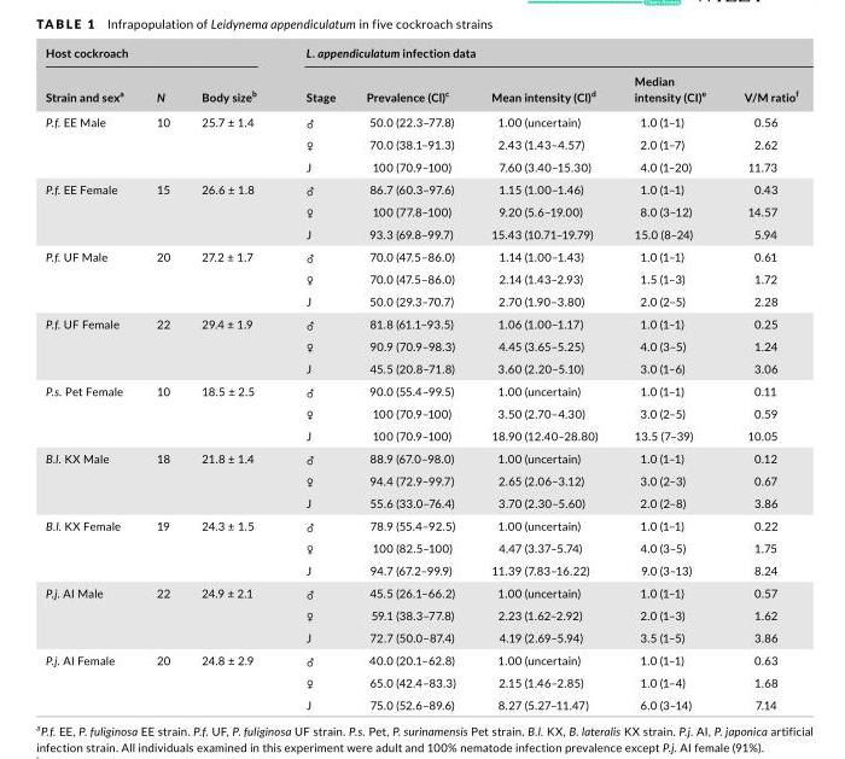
<table><thead><tr><td colspan="3">Host cockroach</td><td colspan="5">L. appendiculatum infection data</td></tr><tr><td>Strain and sex<sup>a</sup></td><td>N</td><td>Body size<sup>b</sup></td><td>Stage</td><td>Prevalence (Cl)<sup>c</sup></td><td>Mean intensity (Cl)<sup>d</sup></td><td>Median intensity (CI)<sup>e</sup></td><td>V/M ratio<sup>f</sup></td></tr></thead><tbody><tr><td rowspan="3">P.f. EE Male</td><td rowspan="3">10</td><td rowspan="3">25.7 ± 1.4</td><td>♂</td><td>50.0 (22.3–77.8)</td><td>1.00 (uncertain)</td><td>1.0 (1–1)</td><td>0.56</td></tr><tr><td>♀</td><td>70.0 (38.1–91.3)</td><td>2.43 (1.43–4.57)</td><td>2.0 (1–7)</td><td>2.62</td></tr><tr><td>J</td><td>100 (70.9–100)</td><td>7.60 (3.40–15.30)</td><td>4.0 (1–20)</td><td>11.73</td></tr><tr><td rowspan="3">P.f. EE Female</td><td rowspan="3">15</td><td rowspan="3">26.6 ± 1.8</td><td>♂</td><td>86.7 (60.3–97.6)</td><td>1.15 (1.00–1.46)</td><td>1.0 (1–1)</td><td>0.43</td></tr><tr><td>♀</td><td>100 (77.8–100)</td><td>9.20 (5.6–19.00)</td><td>8.0 (3–12)</td><td>14.57</td></tr><tr><td>J</td><td>93.3 (69.8–99.7)</td><td>15.43 (10.71–19.79)</td><td>15.0 (8–24)</td><td>5.94</td></tr><tr><td rowspan="3">P.f. UF Male</td><td rowspan="3">20</td><td rowspan="3">27.2 ± 1.7</td><td>♂</td><td>70.0 (47.5–86.0)</td><td>1.14 (1.00–1.43)</td><td>1.0 (1–1)</td><td>0.61</td></tr><tr><td>♀</td><td>70.0 (47.5–86.0)</td><td>2.14 (1.43–2.93)</td><td>1.5 (1–3)</td><td>1.72</td></tr><tr><td>J</td><td>50.0 (29.3–70.7)</td><td>2.70 (1.90–3.80)</td><td>2.0 (2–5)</td><td>2.28</td></tr><tr><td rowspan="3">P.f. UF Female</td><td rowspan="3">22</td><td rowspan="3">29.4 ± 1.9</td><td>♂</td><td>81.8 (61.1–93.5)</td><td>1.06 (1.00–1.17)</td><td>1.0 (1–1)</td><td>0.25</td></tr><tr><td>♀</td><td>90.9 (70.9–98.3)</td><td>4.45 (3.65–5.25)</td><td>4.0 (3–5)</td><td>1.24</td></tr><tr><td>J</td><td>45.5 (20.8–71.8)</td><td>3.60 (2.20–5.10)</td><td>3.0 (1–6)</td><td>3.06</td></tr><tr><td rowspan="3">P.s. Pet Female</td><td rowspan="3">10</td><td rowspan="3">18.5 ± 2.5</td><td>♂</td><td>90.0 (55.4–99.5)</td><td>1.00 (uncertain)</td><td>1.0 (1–1)</td><td>0.11</td></tr><tr><td>♀</td><td>100 (70.9–100)</td><td>3.50 (2.70–4.30)</td><td>3.0 (2–5)</td><td>0.59</td></tr><tr><td>J</td><td>100 (70.9–100)</td><td>18.90 (12.40–28.80)</td><td>13.5 (7–39)</td><td>10.05</td></tr><tr><td rowspan="3">B.l. KX Male</td><td rowspan="3">18</td><td rowspan="3">21.8 ± 1.4</td><td>♂</td><td>88.9 (67.0–98.0)</td><td>1.00 (uncertain)</td><td>1.0 (1–1)</td><td>0.12</td></tr><tr><td>♀</td><td>94.4 (72.9–99.7)</td><td>2.65 (2.06–3.12)</td><td>3.0 (2–3)</td><td>0.67</td></tr><tr><td>J</td><td>55.6 (33.0–76.4)</td><td>3.70 (2.30–5.60)</td><td>2.0 (2–8)</td><td>3.86</td></tr><tr><td rowspan="3">B.l. KX Female</td><td rowspan="3">19</td><td rowspan="3">24.3 ± 1.5</td><td>♂</td><td>78.9 (55.4–92.5)</td><td>1.00 (uncertain)</td><td>1.0 (1–1)</td><td>0.22</td></tr><tr><td>♀</td><td>100 (82.5–100)</td><td>4.47 (3.37–5.74)</td><td>4.0 (3–5)</td><td>1.75</td></tr><tr><td>J</td><td>94.7 (67.2–99.9)</td><td>11.39 (7.83–16.22)</td><td>9.0 (3–13)</td><td>8.24</td></tr><tr><td rowspan="3">P.j. AI Male</td><td rowspan="3">22</td><td rowspan="3">24.9 ± 2.1</td><td>♂</td><td>45.5 (26.1–66.2)</td><td>1.00 (uncertain)</td><td>1.0 (1–1)</td><td>0.57</td></tr><tr><td>♀</td><td>59.1 (38.3–77.8)</td><td>2.23 (1.62–2.92)</td><td>2.0 (1–3)</td><td>1.62</td></tr><tr><td>J</td><td>72.7 (50.0–87.4)</td><td>4.19 (2.69–5.94)</td><td>3.5 (1–5)</td><td>3.86</td></tr><tr><td rowspan="3">P.j. AI Female</td><td rowspan="3">20</td><td rowspan="3">24.8 ± 2.9</td><td>♂</td><td>40.0 (20.1–62.8)</td><td>1.00 (uncertain)</td><td>1.0 (1–1)</td><td>0.63</td></tr><tr><td>♀</td><td>65.0 (42.4–83.3)</td><td>2.15 (1.46–2.85)</td><td>1.0 (1–4)</td><td>1.68</td></tr><tr><td>J</td><td>75.0 (52.6–89.6)</td><td>8.27 (5.27–11.47)</td><td>6.0 (3–14)</td><td>7.14</td></tr></tbody></table>